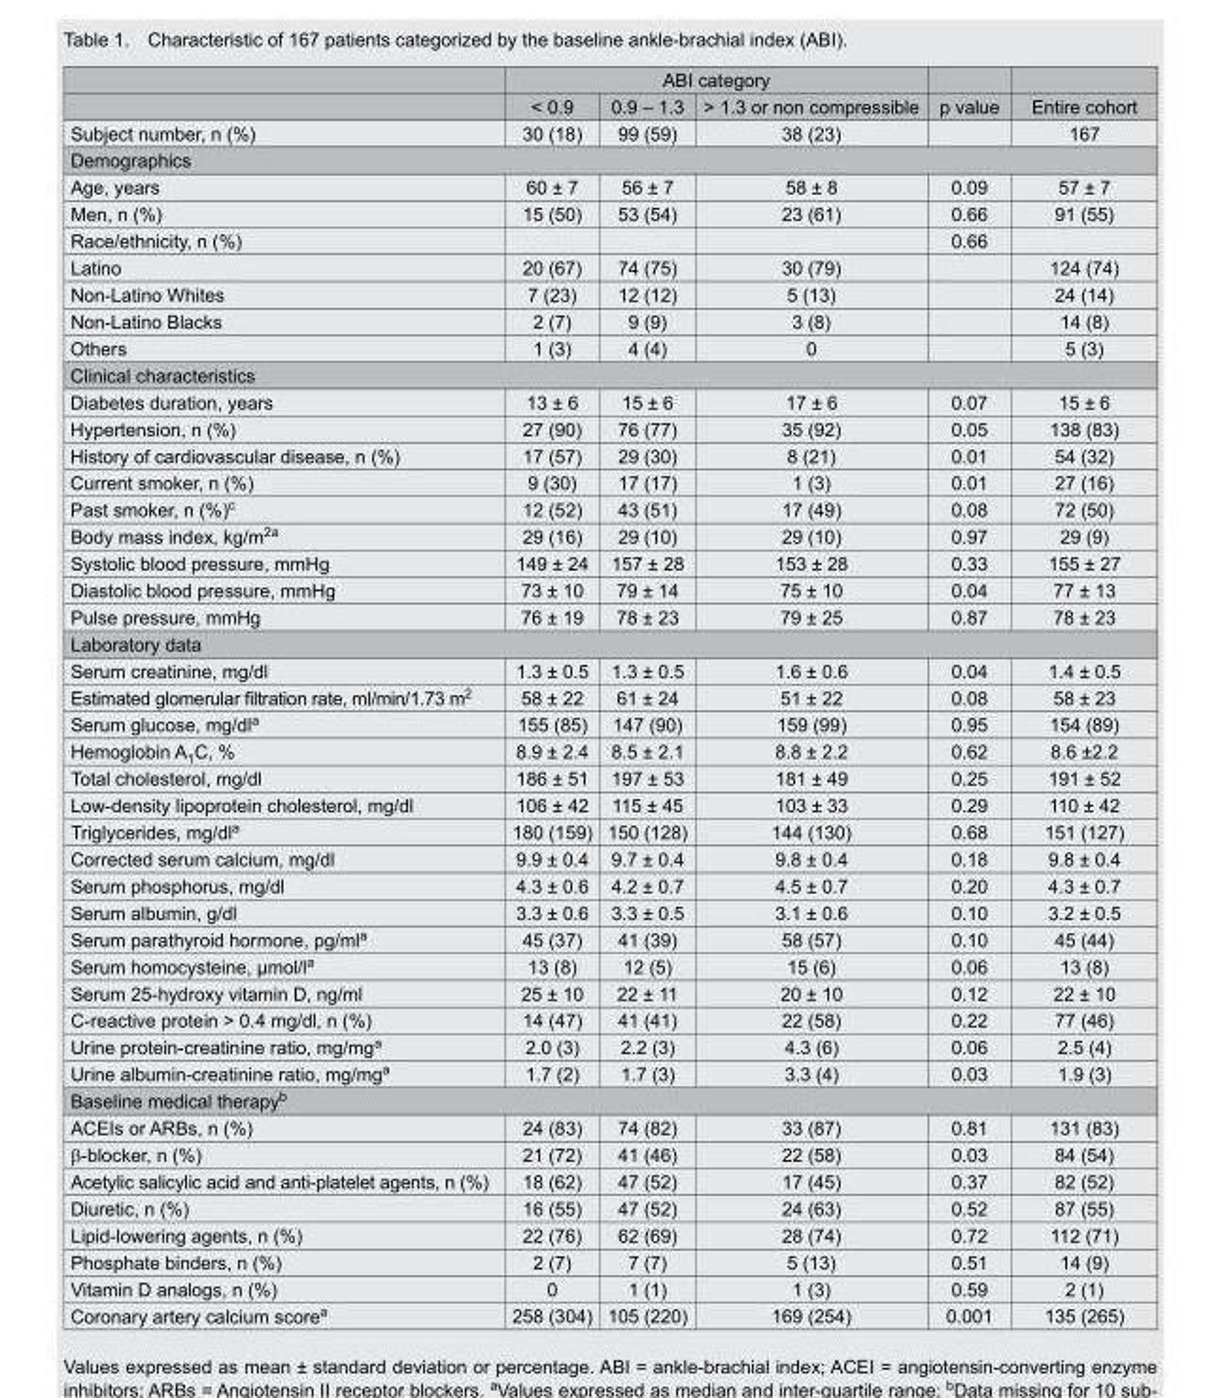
<table><thead><tr><td rowspan="2"></td><td colspan="3">ABI category</td><td rowspan="2">p value</td><td rowspan="2">Entire cohort</td></tr><tr><td>&lt; 0.9</td><td>0.9 – 1.3</td><td>&gt; 1.3 or non compressible</td></tr></thead><tbody><tr><td>Subject number, n (%)</td><td>30 (18)</td><td>99 (59)</td><td>38 (23)</td><td></td><td>167</td></tr><tr><td colspan="6">Demographics</td></tr><tr><td>Age, years</td><td>60 ± 7</td><td>56 ± 7</td><td>58 ± 8</td><td>0.09</td><td>57 ± 7</td></tr><tr><td>Men, n (%)</td><td>15 (50)</td><td>53 (54)</td><td>23 (61)</td><td>0.66</td><td>91 (55)</td></tr><tr><td>Race/ethnicity, n (%)</td><td></td><td></td><td></td><td>0.66</td><td></td></tr><tr><td>Latino</td><td>20 (67)</td><td>74 (75)</td><td>30 (79)</td><td></td><td>124 (74)</td></tr><tr><td>Non-Latino Whites</td><td>7 (23)</td><td>12 (12)</td><td>5 (13)</td><td></td><td>24 (14)</td></tr><tr><td>Non-Latino Blacks</td><td>2 (7)</td><td>9 (9)</td><td>3 (8)</td><td></td><td>14 (8)</td></tr><tr><td>Others</td><td>1 (3)</td><td>4 (4)</td><td>0</td><td></td><td>5 (3)</td></tr><tr><td colspan="6">Clinical characteristics</td></tr><tr><td>Diabetes duration, years</td><td>13 ± 6</td><td>15 ± 6</td><td>17 ± 6</td><td>0.07</td><td>15 ± 6</td></tr><tr><td>Hypertension, n (%)</td><td>27 (90)</td><td>76 (77)</td><td>35 (92)</td><td>0.05</td><td>138 (83)</td></tr><tr><td>History of cardiovascular disease, n (%)</td><td>17 (57)</td><td>29 (30)</td><td>8 (21)</td><td>0.01</td><td>54 (32)</td></tr><tr><td>Current smoker, n (%)</td><td>9 (30)</td><td>17 (17)</td><td>1 (3)</td><td>0.01</td><td>27 (16)</td></tr><tr><td>Past smoker, n (%)<sup>c</sup></td><td>12 (52)</td><td>43 (51)</td><td>17 (49)</td><td>0.08</td><td>72 (50)</td></tr><tr><td>Body mass index, kg/m<sup>2a</sup></td><td>29 (16)</td><td>29 (10)</td><td>29 (10)</td><td>0.97</td><td>29 (9)</td></tr><tr><td>Systolic blood pressure, mmHg</td><td>149 ± 24</td><td>157 ± 28</td><td>153 ± 28</td><td>0.33</td><td>155 ± 27</td></tr><tr><td>Diastolic blood pressure, mmHg</td><td>73 ± 10</td><td>79 ± 14</td><td>75 ± 10</td><td>0.04</td><td>77 ± 13</td></tr><tr><td>Pulse pressure, mmHg</td><td>76 ± 19</td><td>78 ± 23</td><td>79 ± 25</td><td>0.87</td><td>78 ± 23</td></tr><tr><td colspan="6">Laboratory data</td></tr><tr><td>Serum creatinine, mg/dl</td><td>1.3 ± 0.5</td><td>1.3 ± 0.5</td><td>1.6 ± 0.6</td><td>0.04</td><td>1.4 ± 0.5</td></tr><tr><td>Estimated glomerular filtration rate, ml/min/1.73 m<sup>2</sup></td><td>58 ± 22</td><td>61 ± 24</td><td>51 ± 22</td><td>0.08</td><td>58 ± 23</td></tr><tr><td>Serum glucose, mg/dl<sup>a</sup></td><td>155 (85)</td><td>147 (90)</td><td>159 (99)</td><td>0.95</td><td>154 (89)</td></tr><tr><td>Hemoglobin A<sub>1</sub>C, %</td><td>8.9 ± 2.4</td><td>8.5 ± 2.1</td><td>8.8 ± 2.2</td><td>0.62</td><td>8.6 ±2.2</td></tr><tr><td>Total cholesterol, mg/dl</td><td>186 ± 51</td><td>197 ± 53</td><td>181 ± 49</td><td>0.25</td><td>191 ± 52</td></tr><tr><td>Low-density lipoprotein cholesterol, mg/dl</td><td>106 ± 42</td><td>115 ± 45</td><td>103 ± 33</td><td>0.29</td><td>110 ± 42</td></tr><tr><td>Triglycerides, mg/dl<sup>a</sup></td><td>180 (159)</td><td>150 (128)</td><td>144 (130)</td><td>0.68</td><td>151 (127)</td></tr><tr><td>Corrected serum calcium, mg/dl</td><td>9.9 ± 0.4</td><td>9.7 ± 0.4</td><td>9.8 ± 0.4</td><td>0.18</td><td>9.8 ± 0.4</td></tr><tr><td>Serum phosphorus, mg/dl</td><td>4.3 ± 0.6</td><td>4.2 ± 0.7</td><td>4.5 ± 0.7</td><td>0.20</td><td>4.3 ± 0.7</td></tr><tr><td>Serum albumin, g/dl</td><td>3.3 ± 0.6</td><td>3.3 ± 0.5</td><td>3.1 ± 0.6</td><td>0.10</td><td>3.2 ± 0.5</td></tr><tr><td>Serum parathyroid hormone, pg/ml<sup>a</sup></td><td>45 (37)</td><td>41 (39)</td><td>58 (57)</td><td>0.10</td><td>45 (44)</td></tr><tr><td>Serum homocysteine, µmol/l<sup>a</sup></td><td>13 (8)</td><td>12 (5)</td><td>15 (6)</td><td>0.06</td><td>13 (8)</td></tr><tr><td>Serum 25-hydroxy vitamin D, ng/ml</td><td>25 ± 10</td><td>22 ± 11</td><td>20 ± 10</td><td>0.12</td><td>22 ± 10</td></tr><tr><td>C-reactive protein &gt; 0.4 mg/dl, n (%)</td><td>14 (47)</td><td>41 (41)</td><td>22 (58)</td><td>0.22</td><td>77 (46)</td></tr><tr><td>Urine protein-creatinine ratio, mg/mg<sup>a</sup></td><td>2.0 (3)</td><td>2.2 (3)</td><td>4.3 (6)</td><td>0.06</td><td>2.5 (4)</td></tr><tr><td>Urine albumin-creatinine ratio, mg/mg<sup>a</sup></td><td>1.7 (2)</td><td>1.7 (3)</td><td>3.3 (4)</td><td>0.03</td><td>1.9 (3)</td></tr><tr><td colspan="6">Baseline medical therapy<sup>b</sup></td></tr><tr><td>ACEIs or ARBs, n (%)</td><td>24 (83)</td><td>74 (82)</td><td>33 (87)</td><td>0.81</td><td>131 (83)</td></tr><tr><td>β-blocker, n (%)</td><td>21 (72)</td><td>41 (46)</td><td>22 (58)</td><td>0.03</td><td>84 (54)</td></tr><tr><td>Acetylic salicylic acid and anti-platelet agents, n (%)</td><td>18 (62)</td><td>47 (52)</td><td>17 (45)</td><td>0.37</td><td>82 (52)</td></tr><tr><td>Diuretic, n (%)</td><td>16 (55)</td><td>47 (52)</td><td>24 (63)</td><td>0.52</td><td>87 (55)</td></tr><tr><td>Lipid-lowering agents, n (%)</td><td>22 (76)</td><td>62 (69)</td><td>28 (74)</td><td>0.72</td><td>112 (71)</td></tr><tr><td>Phosphate binders, n (%)</td><td>2 (7)</td><td>7 (7)</td><td>5 (13)</td><td>0.51</td><td>14 (9)</td></tr><tr><td>Vitamin D analogs, n (%)</td><td>0</td><td>1 (1)</td><td>1 (3)</td><td>0.59</td><td>2 (1)</td></tr><tr><td>Coronary artery calcium score<sup>a</sup></td><td>258 (304)</td><td>105 (220)</td><td>169 (254)</td><td>0.001</td><td>135 (265)</td></tr></tbody></table>